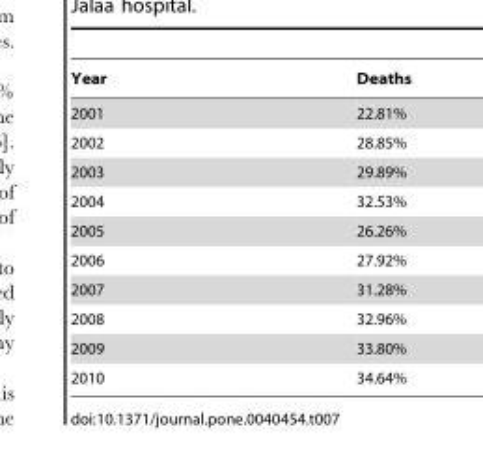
<table><thead><tr><td>Year</td><td>Deaths</td></tr></thead><tbody><tr><td>2001</td><td>22.81%</td></tr><tr><td>2002</td><td>28.85%</td></tr><tr><td>2003</td><td>29.89%</td></tr><tr><td>2004</td><td>32.53%</td></tr><tr><td>2005</td><td>26.26%</td></tr><tr><td>2006</td><td>27.92%</td></tr><tr><td>2007</td><td>31.28%</td></tr><tr><td>2008</td><td>32.96%</td></tr><tr><td>2009</td><td>33.80%</td></tr><tr><td>2010</td><td>34.64%</td></tr></tbody></table>